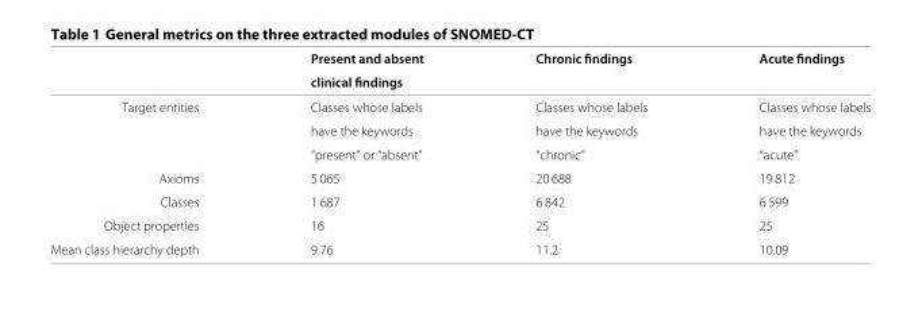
<table><thead><tr><td rowspan="2"></td><td rowspan="2">Present and absent clinical findings</td><td rowspan="2">Chronic findings</td><td rowspan="2">Acute findings</td></tr><tr></tr></thead><tbody><tr><td rowspan="3">Target entities</td><td>Classes whose labels</td><td>Classes whose labels</td><td>Classes whose labels</td></tr><tr><td>have the keywords</td><td>have the keywords</td><td>have the keywords</td></tr><tr><td>“present” or “absent”</td><td>“chronic”</td><td>“acute”</td></tr><tr><td>Axioms</td><td>5 065</td><td>20 688</td><td>19 812</td></tr><tr><td>Classes</td><td>1 687</td><td>6 842</td><td>6 599</td></tr><tr><td>Object properties</td><td>16</td><td>25</td><td>25</td></tr><tr><td>Mean class hierarchy depth</td><td>9.76</td><td>11.2</td><td>10.09</td></tr></tbody></table>